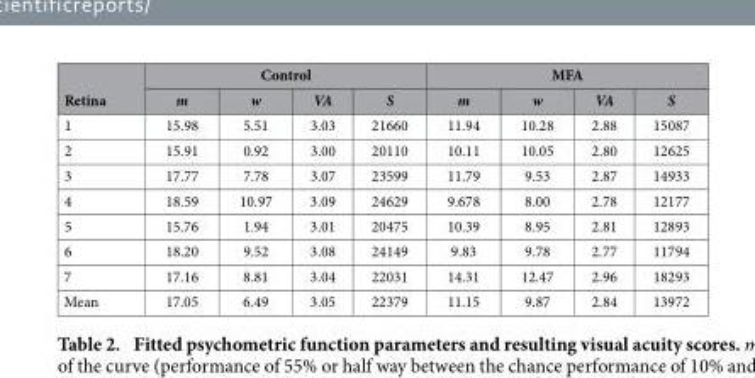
<table><thead><tr><td rowspan="2">Retina</td><td colspan="4">Control</td><td colspan="4">MFA</td></tr><tr><td>m</td><td>w</td><td>VA</td><td>S</td><td>m</td><td>w</td><td>VA</td><td>S</td></tr></thead><tbody><tr><td>1</td><td>15.98</td><td>5.51</td><td>3.03</td><td>21660</td><td>11.94</td><td>10.28</td><td>2.88</td><td>15087</td></tr><tr><td>2</td><td>15.91</td><td>0.92</td><td>3.00</td><td>20110</td><td>10.11</td><td>10.05</td><td>2.80</td><td>12625</td></tr><tr><td>3</td><td>17.77</td><td>7.78</td><td>3.07</td><td>23599</td><td>11.79</td><td>9.53</td><td>2.87</td><td>14933</td></tr><tr><td>4</td><td>18.59</td><td>10.97</td><td>3.09</td><td>24629</td><td>9.678</td><td>8.00</td><td>2.78</td><td>12177</td></tr><tr><td>5</td><td>15.76</td><td>1.94</td><td>3.01</td><td>20475</td><td>10.39</td><td>8.95</td><td>2.81</td><td>12893</td></tr><tr><td>6</td><td>18.20</td><td>9.52</td><td>3.08</td><td>24149</td><td>9.83</td><td>9.78</td><td>2.77</td><td>11794</td></tr><tr><td>7</td><td>17.16</td><td>8.81</td><td>3.04</td><td>22031</td><td>14.31</td><td>12.47</td><td>2.96</td><td>18293</td></tr><tr><td>Mean</td><td>17.05</td><td>6.49</td><td>3.05</td><td>22379</td><td>11.15</td><td>9.87</td><td>2.84</td><td>13972</td></tr></tbody></table>